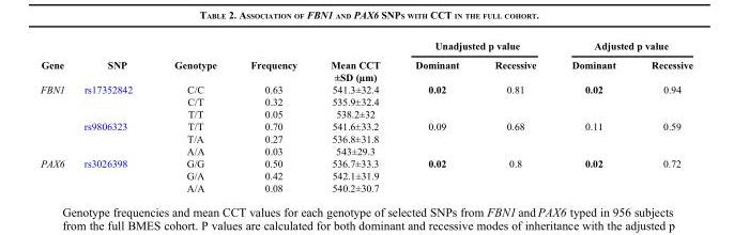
<table><thead><tr><td rowspan="2">Gene</td><td rowspan="2">SNP</td><td rowspan="2">Genotype</td><td rowspan="2">Frequency</td><td rowspan="2">Mean CCT ±SD (µm)</td><td colspan="2">Unadjusted p value</td><td colspan="2">Adjusted p value</td></tr><tr><td>Dominant</td><td>Recessive</td><td>Dominant</td><td>Recessive</td></tr></thead><tbody><tr><td rowspan="6">FBN1</td><td>rs17352842</td><td>C/C</td><td>0.63</td><td>541.3±32.4</td><td>0.02</td><td>0.81</td><td>0.02</td><td>0.94</td></tr><tr><td></td><td>C/T</td><td>0.32</td><td>535.9±32.4</td><td></td><td></td><td></td><td></td></tr><tr><td></td><td>T/T</td><td>0.05</td><td>538.2±32</td><td></td><td></td><td></td><td></td></tr><tr><td>rs9806323</td><td>T/T</td><td>0.70</td><td>541.6±33.2</td><td>0.09</td><td>0.68</td><td>0.11</td><td>0.59</td></tr><tr><td></td><td>T/A</td><td>0.27</td><td>536.8±31.8</td><td></td><td></td><td></td><td></td></tr><tr><td></td><td>A/A</td><td>0.03</td><td>543±29.3</td><td></td><td></td><td></td><td></td></tr><tr><td rowspan="3">PAX6</td><td>rs3026398</td><td>G/G</td><td>0.50</td><td>536.7±33.3</td><td>0.02</td><td>0.8</td><td>0.02</td><td>0.72</td></tr><tr><td></td><td>G/A</td><td>0.42</td><td>542.1±31.9</td><td></td><td></td><td></td><td></td></tr><tr><td></td><td>A/A</td><td>0.08</td><td>540.2±30.7</td><td></td><td></td><td></td><td></td></tr></tbody></table>